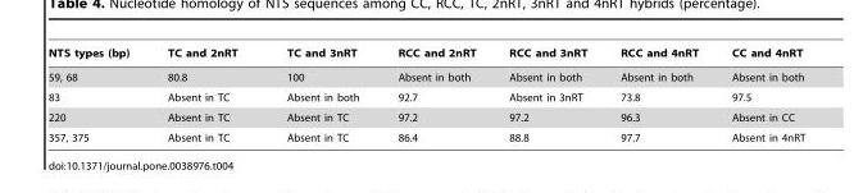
<table><thead><tr><td>NTS types (bp)</td><td>TC and 2nRT</td><td>TC and 3nRT</td><td>RCC and 2nRT</td><td>RCC and 3nRT</td><td>RCC and 4nRT</td><td>CC and 4nRT</td></tr></thead><tbody><tr><td>59, 68</td><td>80.8</td><td>100</td><td>Absent in both</td><td>Absent in both</td><td>Absent in both</td><td>Absent in both</td></tr><tr><td>83</td><td>Absent in TC</td><td>Absent in both</td><td>92.7</td><td>Absent in 3nRT</td><td>73.8</td><td>97.5</td></tr><tr><td>220</td><td>Absent in TC</td><td>Absent in TC</td><td>97.2</td><td>97.2</td><td>96.3</td><td>Absent in CC</td></tr><tr><td>357, 375</td><td>Absent in TC</td><td>Absent in TC</td><td>86.4</td><td>88.8</td><td>97.7</td><td>Absent in 4nRT</td></tr></tbody></table>